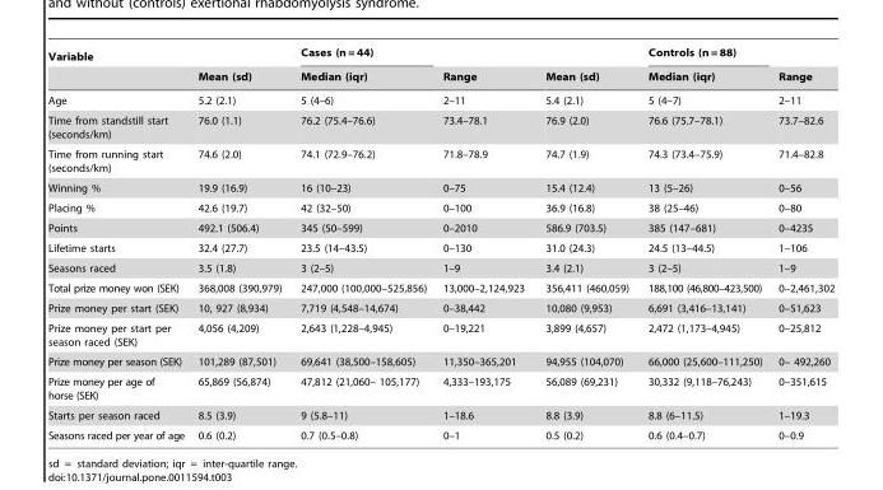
<table><thead><tr><td rowspan="2">Variable</td><td rowspan="2">Mean (sd)</td><td rowspan="2">Cases (n = 44) Median (iqr)</td><td rowspan="2">Range</td><td rowspan="2">Mean (sd)</td><td rowspan="2">Controls (n = 88) Median (iqr)</td><td rowspan="2">Range</td></tr><tr></tr></thead><tbody><tr><td>Age</td><td>5.2 (2.1)</td><td>5 (4–6)</td><td>2–11</td><td>5.4 (2.1)</td><td>5 (4–7)</td><td>2–11</td></tr><tr><td>Time from standstill start (seconds/km)</td><td>76.0 (1.1)</td><td>76.2 (75.4–76.6)</td><td>73.4–78.1</td><td>76.9 (2.0)</td><td>76.6 (75.7–78.1)</td><td>73.7–82.6</td></tr><tr><td>Time from running start (seconds/km)</td><td>74.6 (2.0)</td><td>74.1 (72.9–76.2)</td><td>71.8–78.9</td><td>74.7 (1.9)</td><td>74.3 (73.4–75.9)</td><td>71.4–82.8</td></tr><tr><td>Winning %</td><td>19.9 (16.9)</td><td>16 (10–23)</td><td>0–75</td><td>15.4 (12.4)</td><td>13 (5–26)</td><td>0–56</td></tr><tr><td>Placing %</td><td>42.6 (19.7)</td><td>42 (32–50)</td><td>0–100</td><td>36.9 (16.8)</td><td>38 (25–46)</td><td>0–80</td></tr><tr><td>Points</td><td>492.1 (506.4)</td><td>345 (50–599)</td><td>0–2010</td><td>586.9 (703.5)</td><td>385 (147–681)</td><td>0–4235</td></tr><tr><td>Lifetime starts</td><td>32.4 (27.7)</td><td>23.5 (14–43.5)</td><td>0–130</td><td>31.0 (24.3)</td><td>24.5 (13–44.5)</td><td>1–106</td></tr><tr><td>Seasons raced</td><td>3.5 (1.8)</td><td>3 (2–5)</td><td>1–9</td><td>3.4 (2.1)</td><td>3 (2–5)</td><td>1–9</td></tr><tr><td>Total prize money won (SEK)</td><td>368,008 (390,979)</td><td>247,000 (100,000–525,856)</td><td>13,000–2,124,923</td><td>356,411 (460,059)</td><td>188,100 (46,800–423,500)</td><td>0–2,461,302</td></tr><tr><td>Prize money per start (SEK)</td><td>10, 927 (8,934)</td><td>7,719 (4,548–14,674)</td><td>0–38,442</td><td>10,080 (9,953)</td><td>6,691 (3,416–13,141)</td><td>0–51,623</td></tr><tr><td>Prize money per start per season raced (SEK)</td><td>4,056 (4,209)</td><td>2,643 (1,228–4,945)</td><td>0–19,221</td><td>3,899 (4,657)</td><td>2,472 (1,173–4,945)</td><td>0–25,812</td></tr><tr><td>Prize money per season (SEK)</td><td>101,289 (87,501)</td><td>69,641 (38,500–158,605)</td><td>11,350–365,201</td><td>94,955 (104,070)</td><td>66,000 (25,600–111,250)</td><td>0– 492,260</td></tr><tr><td>Prize money per age of horse (SEK)</td><td>65,869 (56,874)</td><td>47,812 (21,060– 105,177)</td><td>4,333–193,175</td><td>56,089 (69,231)</td><td>30,332 (9,118–76,243)</td><td>0–351,615</td></tr><tr><td>Starts per season raced</td><td>8.5 (3.9)</td><td>9 (5.8–11)</td><td>1–18.6</td><td>8.8 (3.9)</td><td>8.8 (6–11.5)</td><td>1–19.3</td></tr><tr><td>Seasons raced per year of age</td><td>0.6 (0.2)</td><td>0.7 (0.5–0.8)</td><td>0–1</td><td>0.5 (0.2)</td><td>0.6 (0.4–0.7)</td><td>0–0.9</td></tr></tbody></table>